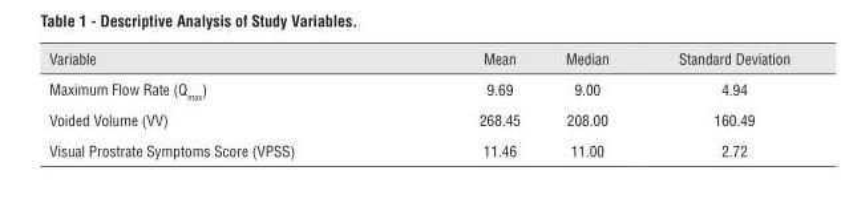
<table><thead><tr><td>Variable</td><td>Mean</td><td>Median</td><td>Standard Deviation</td></tr></thead><tbody><tr><td>Maximum Flow Rate (Q<sub>max</sub>)</td><td>9.69</td><td>9.00</td><td>4.94</td></tr><tr><td>Voided Volume (VV)</td><td>268.45</td><td>208.00</td><td>160.49</td></tr><tr><td>Visual Prostrate Symptoms Score (VPSS)</td><td>11.46</td><td>11.00</td><td>2.72</td></tr></tbody></table>